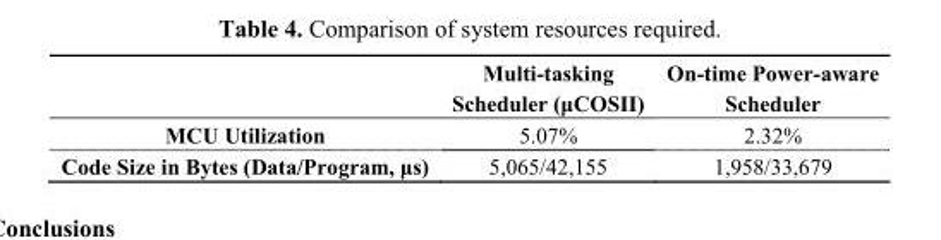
<table><thead><tr><td></td><td>Multi-tasking Scheduler (μCOSII)</td><td>On-time Power-aware Scheduler</td></tr></thead><tbody><tr><td>MCU Utilization</td><td>5.07%</td><td>2.32%</td></tr><tr><td>Code Size in Bytes (Data/Program, μs)</td><td>5,065/42,155</td><td>1,958/33,679</td></tr></tbody></table>